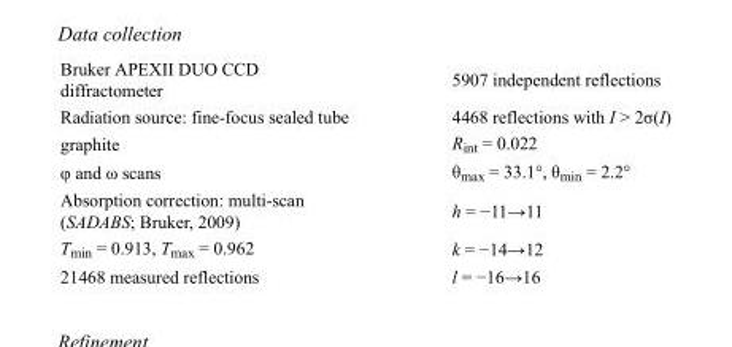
<table><tbody><tr><td>Bruker APEXII DUO CCD diffractometer</td><td>5907 independent reflections</td></tr><tr><td>Radiation source: fine-focus sealed tube</td><td>4468 reflections with I &gt; 2σ(I)</td></tr><tr><td>graphite</td><td>R<sub>int</sub> = 0.022</td></tr><tr><td>φ and ω scans</td><td>θ<sub>max</sub> = 33.1°, θ<sub>min</sub> = 2.2°</td></tr><tr><td>Absorption correction: multi-scan (SADABS; Bruker, 2009)</td><td>h = −11→11</td></tr><tr><td>T<sub>min</sub> = 0.913, T<sub>max</sub> = 0.962</td><td>k = −14→12</td></tr><tr><td>21468 measured reflections</td><td>l = −16→16</td></tr></tbody></table>